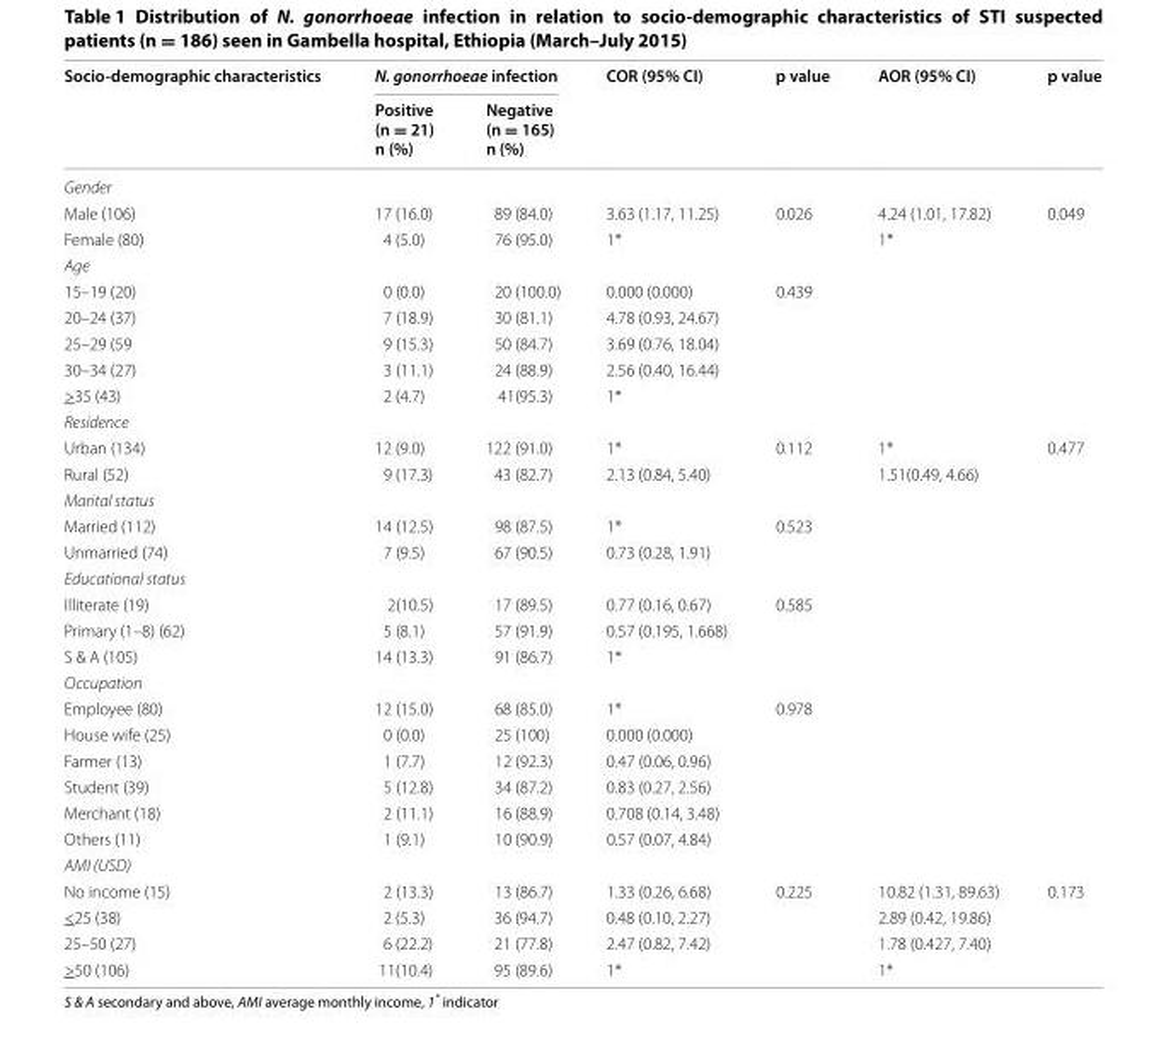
<table><thead><tr><td rowspan="2">Socio‑demographic characteristics</td><td colspan="2">N. gonorrhoeae infection</td><td rowspan="2">COR (95% CI)</td><td rowspan="2">p value</td><td rowspan="2">AOR (95% CI)</td><td rowspan="2">p value</td></tr><tr><td>Positive (n = 21) n (%)</td><td>Negative (n = 165) n (%)</td></tr></thead><tbody><tr><td colspan="7">Gender</td></tr><tr><td>Male (106)</td><td>17 (16.0)</td><td>89 (84.0)</td><td>3.63 (1.17, 11.25)</td><td rowspan="2">0.026</td><td>4.24 (1.01, 17.82)</td><td rowspan="2">0.049</td></tr><tr><td>Female (80)</td><td>4 (5.0)</td><td>76 (95.0)</td><td>1*</td><td>1*</td></tr><tr><td colspan="7">Age</td></tr><tr><td>15–19 (20)</td><td>0 (0.0)</td><td>20 (100.0)</td><td>0.000 (0.000)</td><td rowspan="5">0.439</td><td rowspan="5"></td><td rowspan="5"></td></tr><tr><td>20–24 (37)</td><td>7 (18.9)</td><td>30 (81.1)</td><td>4.78 (0.93, 24.67)</td></tr><tr><td>25–29 (59</td><td>9 (15.3)</td><td>50 (84.7)</td><td>3.69 (0.76, 18.04)</td></tr><tr><td>30–34 (27)</td><td>3 (11.1)</td><td>24 (88.9)</td><td>2.56 (0.40, 16.44)</td></tr><tr><td>&gt;35 (43)</td><td>2 (4.7)</td><td>41(95.3)</td><td>1*</td></tr><tr><td colspan="7">Residence</td></tr><tr><td>Urban (134)</td><td>12 (9.0)</td><td>122 (91.0)</td><td>1*</td><td rowspan="2">0.112</td><td>1*</td><td rowspan="2">0.477</td></tr><tr><td>Rural (52)</td><td>9 (17.3)</td><td>43 (82.7)</td><td>2.13 (0.84, 5.40)</td><td>1.51(0.49, 4.66)</td></tr><tr><td colspan="7">Marital status</td></tr><tr><td>Married (112)</td><td>14 (12.5)</td><td>98 (87.5)</td><td>1*</td><td rowspan="2">0.523</td><td rowspan="2"></td><td rowspan="2"></td></tr><tr><td>Unmarried (74)</td><td>7 (9.5)</td><td>67 (90.5)</td><td>0.73 (0.28, 1.91)</td></tr><tr><td colspan="7">Educational status</td></tr><tr><td>Illiterate (19)</td><td>2(10.5)</td><td>17 (89.5)</td><td>0.77 (0.16, 0.67)</td><td rowspan="3">0.585</td><td rowspan="3"></td><td rowspan="3"></td></tr><tr><td>Primary (1–8) (62)</td><td>5 (8.1)</td><td>57 (91.9)</td><td>0.57 (0.195, 1.668)</td></tr><tr><td>S &amp; A (105)</td><td>14 (13.3)</td><td>91 (86.7)</td><td>1*</td></tr><tr><td colspan="7">Occupation</td></tr><tr><td>Employee (80)</td><td>12 (15.0)</td><td>68 (85.0)</td><td>1*</td><td rowspan="6">0.978</td><td rowspan="6"></td><td rowspan="6"></td></tr><tr><td>House wife (25)</td><td>0 (0.0)</td><td>25 (100)</td><td>0.000 (0.000)</td></tr><tr><td>Farmer (13)</td><td>1 (7.7)</td><td>12 (92.3)</td><td>0.47 (0.06, 0.96)</td></tr><tr><td>Student (39)</td><td>5 (12.8)</td><td>34 (87.2)</td><td>0.83 (0.27, 2.56)</td></tr><tr><td>Merchant (18)</td><td>2 (11.1)</td><td>16 (88.9)</td><td>0.708 (0.14, 3.48)</td></tr><tr><td>Others (11)</td><td>1 (9.1)</td><td>10 (90.9)</td><td>0.57 (0.07, 4.84)</td></tr><tr><td colspan="7">AMI (USD)</td></tr><tr><td>No income (15)</td><td>2 (13.3)</td><td>13 (86.7)</td><td>1.33 (0.26, 6.68)</td><td rowspan="4">0.225</td><td>10.82 (1.31, 89.63)</td><td rowspan="4">0.173</td></tr><tr><td>&lt;25 (38)</td><td>2 (5.3)</td><td>36 (94.7)</td><td>0.48 (0.10, 2.27)</td><td>2.89 (0.42, 19.86)</td></tr><tr><td>25–50 (27)</td><td>6 (22.2)</td><td>21 (77.8)</td><td>2.47 (0.82, 7.42)</td><td>1.78 (0.427, 7.40)</td></tr><tr><td>&gt;50 (106)</td><td>11(10.4)</td><td>95 (89.6)</td><td>1*</td><td>1*</td></tr></tbody></table>